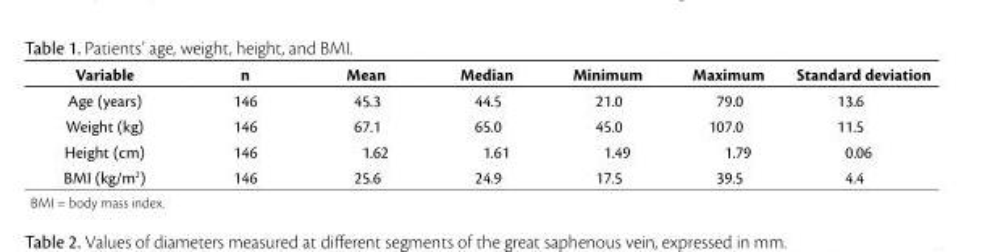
<table><thead><tr><td>Variable</td><td>n</td><td>Mean</td><td>Median</td><td>Minimum</td><td>Maximum</td><td>Standard deviation</td></tr></thead><tbody><tr><td>Age (years)</td><td>146</td><td>45.3</td><td>44.5</td><td>21.0</td><td>79.0</td><td>13.6</td></tr><tr><td>Weight (kg)</td><td>146</td><td>67.1</td><td>65.0</td><td>45.0</td><td>107.0</td><td>11.5</td></tr><tr><td>Height (cm)</td><td>146</td><td>1.62</td><td>1.61</td><td>1.49</td><td>1.79</td><td>0.06</td></tr><tr><td>BMI (kg/m2)</td><td>146</td><td>25.6</td><td>24.9</td><td>17.5</td><td>39.5</td><td>4.4</td></tr></tbody></table>